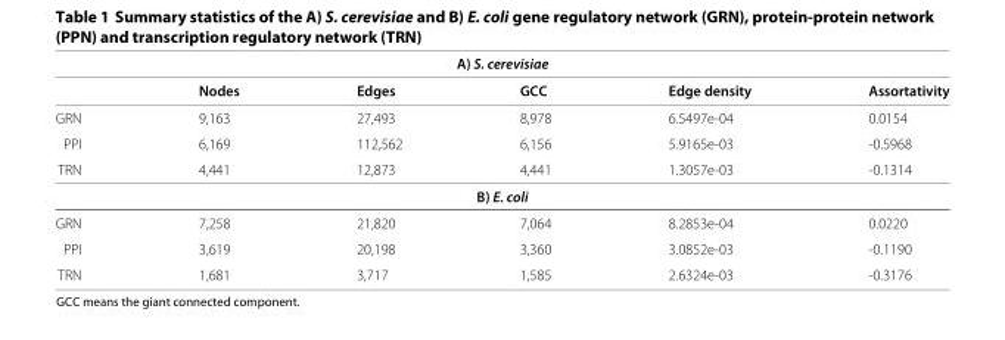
<table><thead><tr><td colspan="6">A) S. cerevisiae</td></tr><tr><td></td><td>Nodes</td><td>Edges</td><td>GCC</td><td>Edge density</td><td>Assortativity</td></tr></thead><tbody><tr><td>GRN</td><td>9,163</td><td>27,493</td><td>8,978</td><td>6.5497e-04</td><td>0.0154</td></tr><tr><td>PPI</td><td>6,169</td><td>112,562</td><td>6,156</td><td>5.9165e-03</td><td>-0.5968</td></tr><tr><td>TRN</td><td>4,441</td><td>12,873</td><td>4,441</td><td>1.3057e-03</td><td>-0.1314</td></tr><tr><td colspan="6">B) E. coli</td></tr><tr><td>GRN</td><td>7,258</td><td>21,820</td><td>7,064</td><td>8.2853e-04</td><td>0.0220</td></tr><tr><td>PPI</td><td>3,619</td><td>20,198</td><td>3,360</td><td>3.0852e-03</td><td>-0.1190</td></tr><tr><td>TRN</td><td>1,681</td><td>3,717</td><td>1,585</td><td>2.6324e-03</td><td>-0.3176</td></tr></tbody></table>